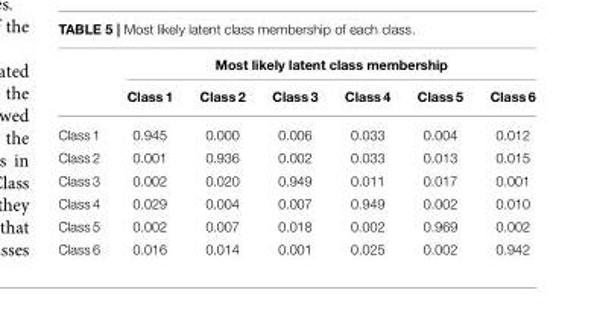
<table><thead><tr><td rowspan="2"></td><td colspan="6">Most likely latent class membership</td></tr><tr><td>Class 1</td><td>Class 2</td><td>Class 3</td><td>Class 4</td><td>Class 5</td><td>Class 6</td></tr></thead><tbody><tr><td>Class 1</td><td>0.945</td><td>0.000</td><td>0.006</td><td>0.033</td><td>0.004</td><td>0.012</td></tr><tr><td>Class 2</td><td>0.001</td><td>0.936</td><td>0.002</td><td>0.033</td><td>0.013</td><td>0.015</td></tr><tr><td>Class 3</td><td>0.002</td><td>0.020</td><td>0.949</td><td>0.011</td><td>0.017</td><td>0.001</td></tr><tr><td>Class 4</td><td>0.029</td><td>0.004</td><td>0.007</td><td>0.949</td><td>0.002</td><td>0.010</td></tr><tr><td>Class 5</td><td>0.002</td><td>0.007</td><td>0.018</td><td>0.002</td><td>0.969</td><td>0.002</td></tr><tr><td>Class 6</td><td>0.016</td><td>0.014</td><td>0.001</td><td>0.025</td><td>0.002</td><td>0.942</td></tr></tbody></table>